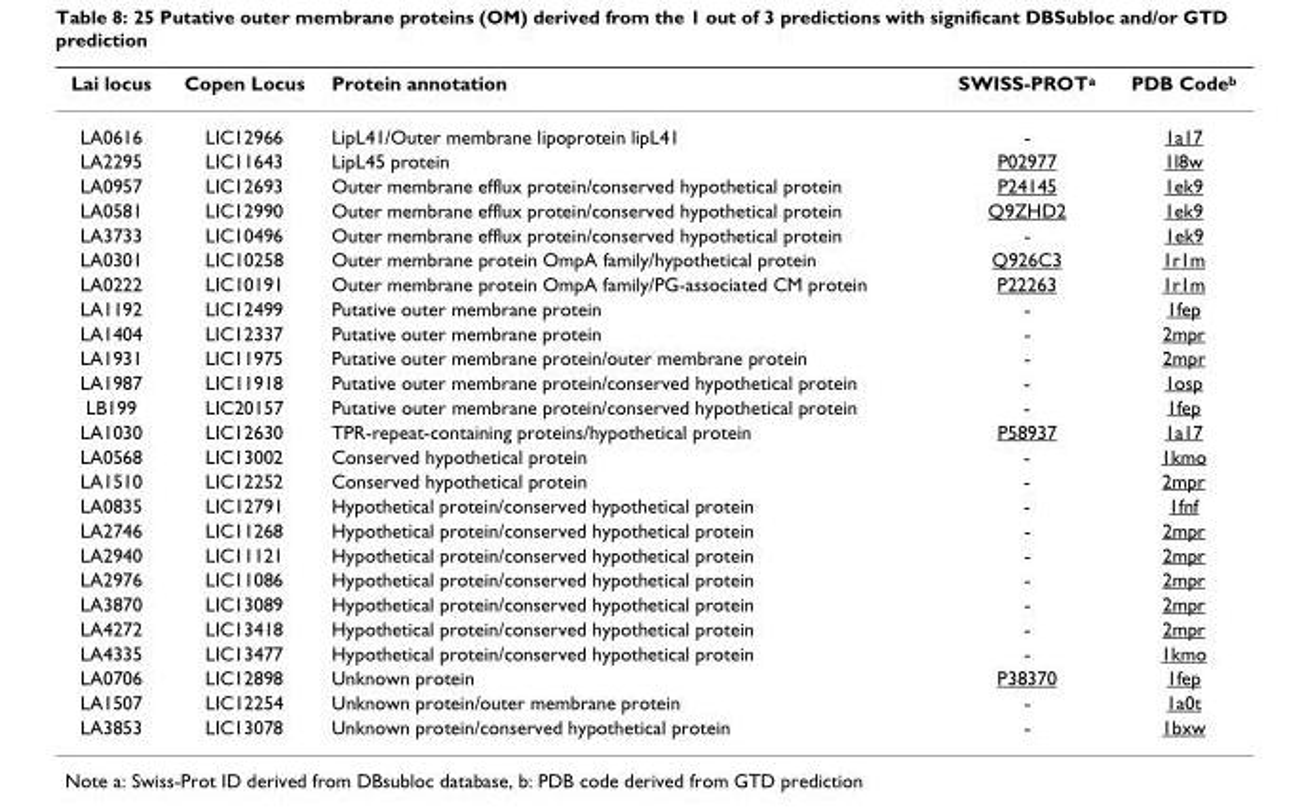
<table><thead><tr><td>Lai locus</td><td>Copen Locus</td><td>Protein annotation</td><td>SWISS-PROT<sup>a</sup></td><td>PDB Code<sup>b</sup></td></tr></thead><tbody><tr><td>LA0616</td><td>LIC12966</td><td>LipL41/Outer membrane lipoprotein lipL41</td><td>-</td><td>1a17</td></tr><tr><td>LA2295</td><td>LIC11643</td><td>LipL45 protein</td><td>P02977</td><td>1l8w</td></tr><tr><td>LA0957</td><td>LIC12693</td><td>Outer membrane efflux protein/conserved hypothetical protein</td><td>P24145</td><td>1ek9</td></tr><tr><td>LA0581</td><td>LIC12990</td><td>Outer membrane efflux protein/conserved hypothetical protein</td><td>Q9ZHD2</td><td>1ek9</td></tr><tr><td>LA3733</td><td>LIC10496</td><td>Outer membrane efflux protein/conserved hypothetical protein</td><td>-</td><td>1ek9</td></tr><tr><td>LA0301</td><td>LIC10258</td><td>Outer membrane protein OmpA family/hypothetical protein</td><td>Q926C3</td><td>1r1m</td></tr><tr><td>LA0222</td><td>LIC10191</td><td>Outer membrane protein OmpA family/PG-associated CM protein</td><td>P22263</td><td>1r1m</td></tr><tr><td>LA1192</td><td>LIC12499</td><td>Putative outer membrane protein</td><td>-</td><td>1fep</td></tr><tr><td>LA1404</td><td>LIC12337</td><td>Putative outer membrane protein</td><td>-</td><td>2mpr</td></tr><tr><td>LA1931</td><td>LIC11975</td><td>Putative outer membrane protein/outer membrane protein</td><td>-</td><td>2mpr</td></tr><tr><td>LA1987</td><td>LIC11918</td><td>Putative outer membrane protein/conserved hypothetical protein</td><td>-</td><td>1osp</td></tr><tr><td>LB199</td><td>LIC20157</td><td>Putative outer membrane protein/conserved hypothetical protein</td><td>-</td><td>1fep</td></tr><tr><td>LA1030</td><td>LIC12630</td><td>TPR-repeat-containing proteins/hypothetical protein</td><td>P58937</td><td>1a17</td></tr><tr><td>LA0568</td><td>LIC13002</td><td>Conserved hypothetical protein</td><td>-</td><td>1kmo</td></tr><tr><td>LA1510</td><td>LIC12252</td><td>Conserved hypothetical protein</td><td>-</td><td>2mpr</td></tr><tr><td>LA0835</td><td>LIC12791</td><td>Hypothetical protein/conserved hypothetical protein</td><td>-</td><td>1fnf</td></tr><tr><td>LA2746</td><td>LIC11268</td><td>Hypothetical protein/conserved hypothetical protein</td><td>-</td><td>2mpr</td></tr><tr><td>LA2940</td><td>LIC11121</td><td>Hypothetical protein/conserved hypothetical protein</td><td>-</td><td>2mpr</td></tr><tr><td>LA2976</td><td>LIC11086</td><td>Hypothetical protein/conserved hypothetical protein</td><td>-</td><td>2mpr</td></tr><tr><td>LA3870</td><td>LIC13089</td><td>Hypothetical protein/conserved hypothetical protein</td><td>-</td><td>2mpr</td></tr><tr><td>LA4272</td><td>LIC13418</td><td>Hypothetical protein/conserved hypothetical protein</td><td>-</td><td>2mpr</td></tr><tr><td>LA4335</td><td>LIC13477</td><td>Hypothetical protein/conserved hypothetical protein</td><td>-</td><td>1kmo</td></tr><tr><td>LA0706</td><td>LIC12898</td><td>Unknown protein</td><td>P38370</td><td>1fep</td></tr><tr><td>LA1507</td><td>LIC12254</td><td>Unknown protein/outer membrane protein</td><td>-</td><td>1a0t</td></tr><tr><td>LA3853</td><td>LIC13078</td><td>Unknown protein/conserved hypothetical protein</td><td>-</td><td>1bxw</td></tr></tbody></table>